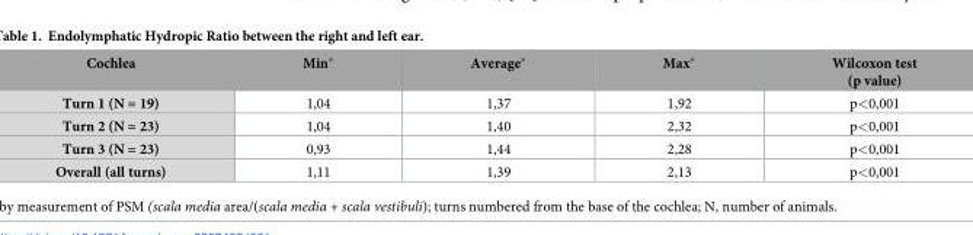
<table><thead><tr><td>Cochlea</td><td>Min*</td><td>Average*</td><td>Max*</td><td>Wilcoxon test (p value)</td></tr></thead><tbody><tr><td>Turn 1 (N = 19)</td><td>1,04</td><td>1,37</td><td>1,92</td><td>p&lt;0,001</td></tr><tr><td>Turn 2 (N = 23)</td><td>1,04</td><td>1,40</td><td>2,32</td><td>p&lt;0,001</td></tr><tr><td>Turn 3 (N = 23)</td><td>0,93</td><td>1,44</td><td>2,28</td><td>p&lt;0,001</td></tr><tr><td>Overall (all turns)</td><td>1,11</td><td>1,39</td><td>2,13</td><td>p&lt;0,001</td></tr></tbody></table>